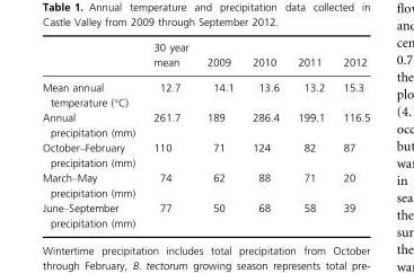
<table><thead><tr><td></td><td>30 year mean</td><td>2009</td><td>2010</td><td>2011</td><td>2012</td></tr></thead><tbody><tr><td>Mean annual temperature (°C)</td><td>12.7</td><td>14.1</td><td>13.6</td><td>13.2</td><td>15.3</td></tr><tr><td>Annual precipitation (mm)</td><td>261.7</td><td>189</td><td>286.4</td><td>199.1</td><td>116.5</td></tr><tr><td>October–February precipitation (mm)</td><td>110</td><td>71</td><td>124</td><td>82</td><td>87</td></tr><tr><td>March–May precipitation (mm)</td><td>74</td><td>62</td><td>88</td><td>71</td><td>20</td></tr><tr><td>June–September precipitation (mm)</td><td>77</td><td>50</td><td>68</td><td>58</td><td>39</td></tr></tbody></table>